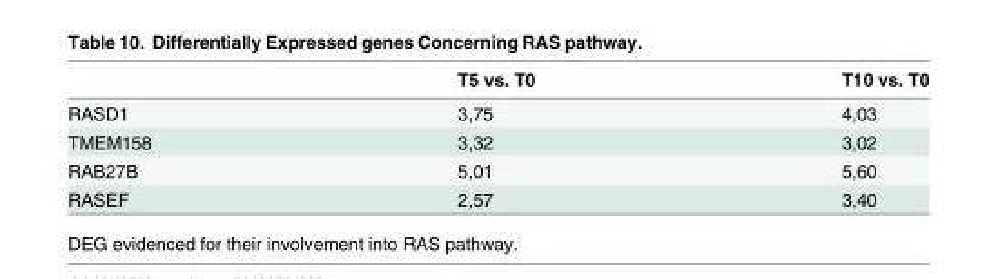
<table><thead><tr><td></td><td>T5 vs. T0</td><td>T10 vs. T0</td></tr></thead><tbody><tr><td>RASD1</td><td>3,75</td><td>4,03</td></tr><tr><td>TMEM158</td><td>3,32</td><td>3,02</td></tr><tr><td>RAB27B</td><td>5,01</td><td>5,60</td></tr><tr><td>RASEF</td><td>2,57</td><td>3,40</td></tr></tbody></table>